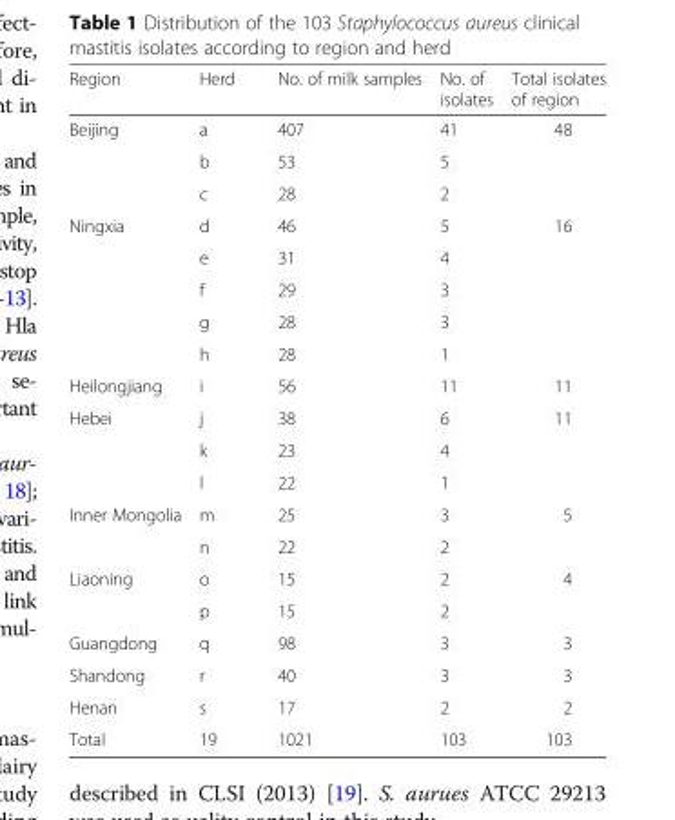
<table><thead><tr><td>Region</td><td>Herd</td><td>No. of milk samples</td><td>No. of isolates</td><td>Total isolates of region</td></tr></thead><tbody><tr><td rowspan="3">Beijing</td><td>a</td><td>407</td><td>41</td><td rowspan="3">48</td></tr><tr><td>b</td><td>53</td><td>5</td></tr><tr><td>c</td><td>28</td><td>2</td></tr><tr><td rowspan="5">Ningxia</td><td>d</td><td>46</td><td>5</td><td rowspan="5">16</td></tr><tr><td>e</td><td>31</td><td>4</td></tr><tr><td>f</td><td>29</td><td>3</td></tr><tr><td>g</td><td>28</td><td>3</td></tr><tr><td>h</td><td>28</td><td>1</td></tr><tr><td>Heilongjiang</td><td>i</td><td>56</td><td>11</td><td>11</td></tr><tr><td rowspan="3">Hebei</td><td>j</td><td>38</td><td>6</td><td rowspan="3">11</td></tr><tr><td>k</td><td>23</td><td>4</td></tr><tr><td>l</td><td>22</td><td>1</td></tr><tr><td rowspan="2">Inner Mongolia</td><td>m</td><td>25</td><td>3</td><td rowspan="2">5</td></tr><tr><td>n</td><td>22</td><td>2</td></tr><tr><td rowspan="2">Liaoning</td><td>o</td><td>15</td><td>2</td><td rowspan="2">4</td></tr><tr><td>p</td><td>15</td><td>2</td></tr><tr><td>Guangdong</td><td>q</td><td>98</td><td>3</td><td>3</td></tr><tr><td>Shandong</td><td>r</td><td>40</td><td>3</td><td>3</td></tr><tr><td>Henan</td><td>s</td><td>17</td><td>2</td><td>2</td></tr><tr><td>Total</td><td>19</td><td>1021</td><td>103</td><td>103</td></tr></tbody></table>